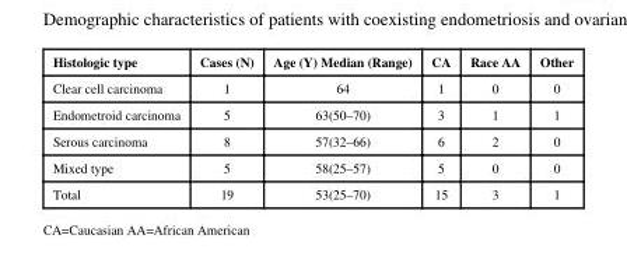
<table><thead><tr><td>Histologic type</td><td>Cases (N)</td><td>Age (Y) Median (Range)</td><td>CA</td><td>Race AA</td><td>Other</td></tr></thead><tbody><tr><td>Clear cell carcinoma</td><td>1</td><td>64</td><td>1</td><td>0</td><td>0</td></tr><tr><td>Endometroid carcinoma</td><td>5</td><td>63(50–70)</td><td>3</td><td>1</td><td>1</td></tr><tr><td>Serous carcinoma</td><td>8</td><td>57(32–66)</td><td>6</td><td>2</td><td>0</td></tr><tr><td>Mixed type</td><td>5</td><td>58(25–57)</td><td>5</td><td>0</td><td>0</td></tr><tr><td>Total</td><td>19</td><td>53(25–70)</td><td>15</td><td>3</td><td>1</td></tr></tbody></table>